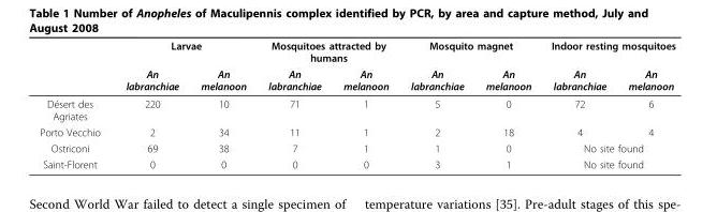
<table><thead><tr><td rowspan="2"></td><td colspan="2">Larvae</td><td colspan="2">Mosquitoes attracted by humans</td><td colspan="2">Mosquito magnet</td><td colspan="2">Indoor resting mosquitoes</td></tr><tr><td>An labranchiae</td><td>An melanoon</td><td>An labranchiae</td><td>An melanoon</td><td>An labranchiae</td><td>An melanoon</td><td>An labranchiae</td><td>An melanoon</td></tr></thead><tbody><tr><td>Désert des Agriates</td><td>220</td><td>10</td><td>71</td><td>1</td><td>5</td><td>0</td><td>72</td><td>6</td></tr><tr><td>Porto Vecchio</td><td>2</td><td>34</td><td>11</td><td>1</td><td>2</td><td>18</td><td>4</td><td>4</td></tr><tr><td>Ostriconi</td><td>69</td><td>38</td><td>7</td><td>1</td><td>1</td><td>0</td><td colspan="2">No site found</td></tr><tr><td>Saint-Florent</td><td>0</td><td>0</td><td>0</td><td>0</td><td>3</td><td>1</td><td colspan="2">No site found</td></tr></tbody></table>